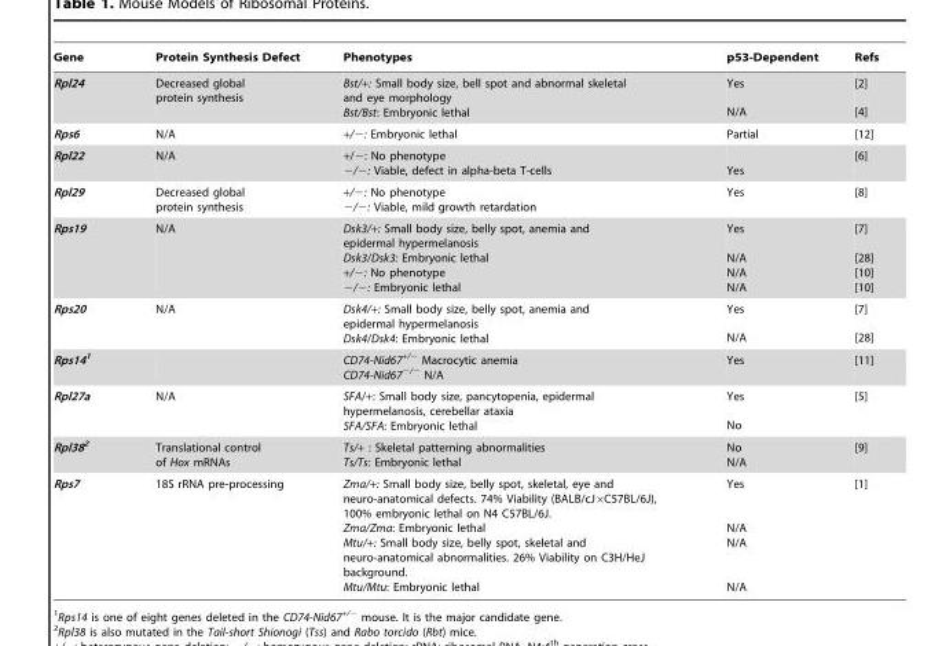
<table><thead><tr><td>Gene</td><td>Protein Synthesis Defect</td><td>Phenotypes</td><td>p53-Dependent</td><td>Refs</td></tr></thead><tbody><tr><td>Rpl24</td><td>Decreased global protein synthesis</td><td>Bst/+: Small body size, bell spot and abnormal skeletal and eye morphology Bst/Bst: Embryonic lethal</td><td>Yes N/A</td><td>[2] [4]</td></tr><tr><td>Rps6</td><td>N/A</td><td>+/−: Embryonic lethal</td><td>Partial</td><td>[12]</td></tr><tr><td>Rpl22</td><td>N/A</td><td>+/−: No phenotype −/−: Viable, defect in alpha-beta T-cells</td><td>Yes</td><td>[6]</td></tr><tr><td>Rpl29</td><td>Decreased global protein synthesis</td><td>+/−: No phenotype −/−: Viable, mild growth retardation</td><td>Yes</td><td>[8]</td></tr><tr><td>Rps19</td><td>N/A</td><td>Dsk3/+: Small body size, belly spot, anemia and epidermal hypermelanosis Dsk3/Dsk3: Embryonic lethal +/−: No phenotype −/−: Embryonic lethal</td><td>Yes N/A N/A N/A</td><td>[7] [28] [10] [10]</td></tr><tr><td>Rps20</td><td>N/A</td><td>Dsk4/+: Small body size, belly spot, anemia and epidermal hypermelanosis Dsk4/Dsk4: Embryonic lethal</td><td>Yes N/A</td><td>[7] [28]</td></tr><tr><td>Rps141</td><td></td><td>CD74-Nid67<sup>+/−</sup> Macrocytic anemia CD74-Nid67<sup>−/−</sup> N/A</td><td>Yes</td><td>[11]</td></tr><tr><td>Rpl27a</td><td>N/A</td><td>SFA/+: Small body size, pancytopenia, epidermal hypermelanosis, cerebellar ataxia SFA/SFA: Embryonic lethal</td><td>Yes No</td><td>[5]</td></tr><tr><td>Rpl382</td><td>Translational control of Hox mRNAs</td><td>Ts/+ : Skeletal patterning abnormalities Ts/Ts: Embryonic lethal</td><td>No N/A</td><td>[9]</td></tr><tr><td>Rps7</td><td>18S rRNA pre-processing</td><td>Zma/+: Small body size, belly spot, skeletal, eye and neuro-anatomical defects. 74% Viability (BALB/cJ×C57BL/6J), 100% embryonic lethal on N4 C57BL/6J. Zma/Zma: Embryonic lethal Mtu/+: Small body size, belly spot, skeletal and neuro-anatomical abnormalities. 26% Viability on C3H/HeJ background. Mtu/Mtu: Embryonic lethal</td><td>Yes N/A N/A N/A</td><td>[1]</td></tr></tbody></table>